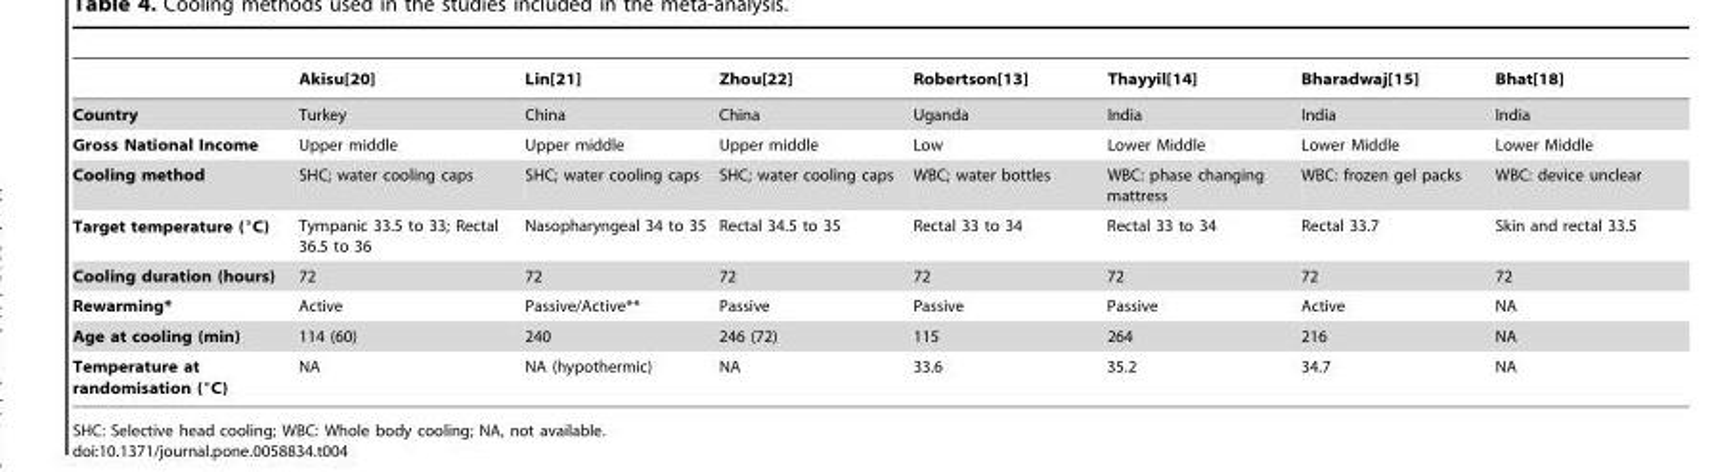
<table><thead><tr><td></td><td>Akisu[20]</td><td>Lin[21]</td><td>Zhou[22]</td><td>Robertson[13]</td><td>Thayyil[14]</td><td>Bharadwaj[15]</td><td>Bhat[18]</td></tr></thead><tbody><tr><td>Country</td><td>Turkey</td><td>China</td><td>China</td><td>Uganda</td><td>India</td><td>India</td><td>India</td></tr><tr><td>Gross National Income</td><td>Upper middle</td><td>Upper middle</td><td>Upper middle</td><td>Low</td><td>Lower Middle</td><td>Lower Middle</td><td>Lower Middle</td></tr><tr><td>Cooling method</td><td>SHC; water cooling caps</td><td>SHC; water cooling caps</td><td>SHC; water cooling caps</td><td>WBC; water bottles</td><td>WBC: phase changing mattress</td><td>WBC: frozen gel packs</td><td>WBC: device unclear</td></tr><tr><td>Target temperature (°C)</td><td>Tympanic 33.5 to 33; Rectal 36.5 to 36</td><td>Nasopharyngeal 34 to 35</td><td>Rectal 34.5 to 35</td><td>Rectal 33 to 34</td><td>Rectal 33 to 34</td><td>Rectal 33.7</td><td>Skin and rectal 33.5</td></tr><tr><td>Cooling duration (hours)</td><td>72</td><td>72</td><td>72</td><td>72</td><td>72</td><td>72</td><td>72</td></tr><tr><td>Rewarming*</td><td>Active</td><td>Passive/Active**</td><td>Passive</td><td>Passive</td><td>Passive</td><td>Active</td><td>NA</td></tr><tr><td>Age at cooling (min)</td><td>114 (60)</td><td>240</td><td>246 (72)</td><td>115</td><td>264</td><td>216</td><td>NA</td></tr><tr><td>Temperature at randomisation (°C)</td><td>NA</td><td>NA (hypothermic)</td><td>NA</td><td>33.6</td><td>35.2</td><td>34.7</td><td>NA</td></tr></tbody></table>